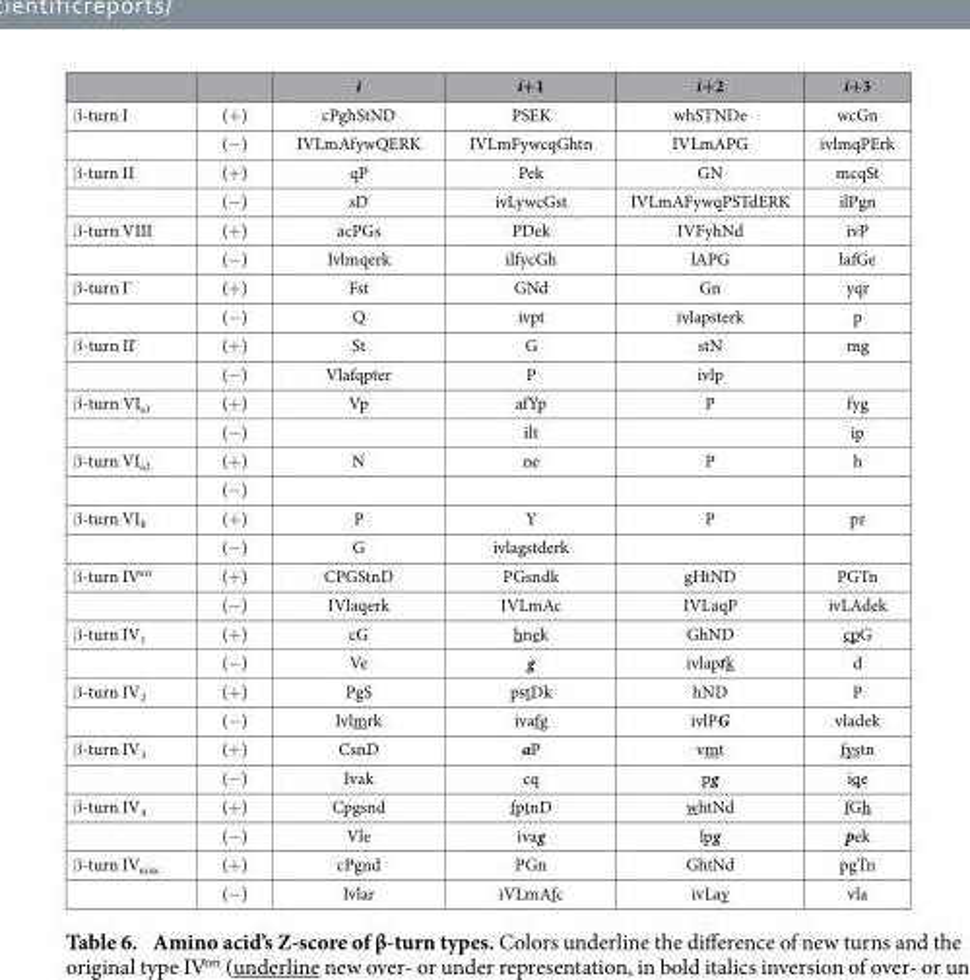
<table><thead><tr><td></td><td></td><td>i</td><td>i+1</td><td>i+2</td><td>i+3</td></tr></thead><tbody><tr><td rowspan="2">β -turn I</td><td>(+ )</td><td>cPghStND</td><td>PSEK</td><td>whSTNDe</td><td>wcGn</td></tr><tr><td>(− )</td><td>IVLmAfywQERK</td><td>IVLmFywcqGhtn</td><td>IVLmAPG</td><td>ivlmqPErk</td></tr><tr><td rowspan="2">β -turn II</td><td>(+ )</td><td>qP</td><td>Pek</td><td>GN</td><td>mcqSt</td></tr><tr><td>(− )</td><td>sD</td><td>ivLywcGst</td><td>IVLmAFywqPSTdERK</td><td>ilPgn</td></tr><tr><td rowspan="2">β -turn VIII</td><td>(+ )</td><td>acPGs</td><td>PDek</td><td>IVFyhNd</td><td>ivP</td></tr><tr><td>(− )</td><td>Ivlmqerk</td><td>ilfycGh</td><td>lAPG</td><td>lafGe</td></tr><tr><td rowspan="2">β -turn I&#x27;</td><td>(+ )</td><td>Fst</td><td>GNd</td><td>Gn</td><td>yqr</td></tr><tr><td>(− )</td><td>Q</td><td>ivpt</td><td>ivlapsterk</td><td>p</td></tr><tr><td rowspan="2">β -turn II&#x27;</td><td>(+ )</td><td>St</td><td>G</td><td>stN</td><td>mg</td></tr><tr><td>(− )</td><td>Vlafqpter</td><td>P</td><td>ivlp</td><td></td></tr><tr><td rowspan="2">β -turn VI<sub>a1</sub></td><td>(+ )</td><td>Vp</td><td>afYp</td><td>P</td><td>fyg</td></tr><tr><td>(− )</td><td></td><td>ilt</td><td></td><td>ip</td></tr><tr><td rowspan="2">β -turn VI<sub>a2</sub></td><td>(+ )</td><td>N</td><td>ne</td><td>P</td><td>h</td></tr><tr><td>(− )</td><td></td><td></td><td></td><td></td></tr><tr><td rowspan="2">β -turn VI<sub>b</sub></td><td>(+ )</td><td>P</td><td>Y</td><td>P</td><td>pr</td></tr><tr><td>(− )</td><td>G</td><td>ivlagstderk</td><td></td><td></td></tr><tr><td rowspan="2">β -turn IV<sup>ori</sup></td><td>(+ )</td><td>CPGStnD</td><td>PGsndk</td><td>gHtND</td><td>PGTn</td></tr><tr><td>(− )</td><td>IVlaqerk</td><td>IVLmAc</td><td>IVLaqP</td><td>ivLAdek</td></tr><tr><td rowspan="2">β -turn IV<sub>1</sub></td><td>(+ )</td><td>cG</td><td>hnek</td><td>GhND</td><td>cpG</td></tr><tr><td>(− )</td><td>Ve</td><td>g</td><td>ivlaptk</td><td>d</td></tr><tr><td rowspan="2">β -turn IV<sub>2</sub></td><td>(+ )</td><td>PgS</td><td>pstDk</td><td>hND</td><td>P</td></tr><tr><td>(− )</td><td>Ivlmrk</td><td>ivafg</td><td>ivlPG</td><td>vladek</td></tr><tr><td rowspan="2">β -turn IV<sub>3</sub></td><td>(+ )</td><td>CsnD</td><td>aP</td><td>vmt</td><td>fystn</td></tr><tr><td>(− )</td><td>Ivak</td><td>cq</td><td>pg</td><td>iqe</td></tr><tr><td rowspan="2">β -turn IV<sub>4</sub></td><td>(+ )</td><td>Cpgsnd</td><td>fptnD</td><td>whtNd</td><td>fGh</td></tr><tr><td>(− )</td><td>Vle</td><td>ivag</td><td>lpg</td><td>pek</td></tr><tr><td rowspan="2">β -turn IV<sub>misc</sub></td><td>(+ )</td><td>cPgnd</td><td>PGn</td><td>GhtNd</td><td>pgTn</td></tr><tr><td>(− )</td><td>Ivlar</td><td>iVLmAfc</td><td>ivLay</td><td>vla</td></tr></tbody></table>